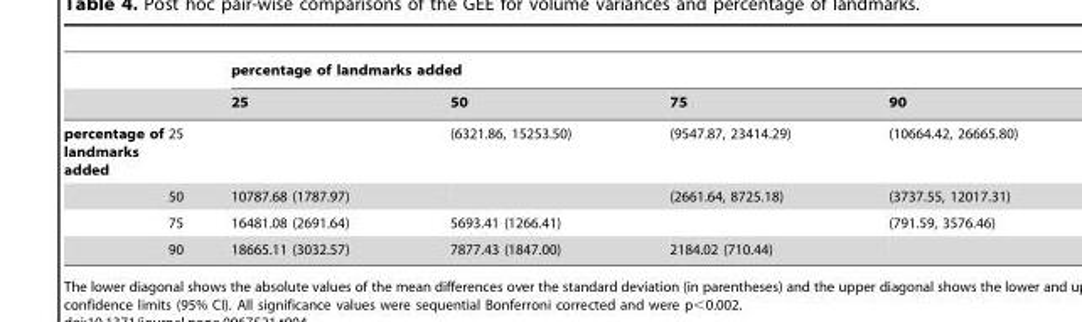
<table><thead><tr><td rowspan="2"></td><td rowspan="2"></td><td colspan="4">percentage of landmarks added</td></tr><tr><td>25</td><td>50</td><td>75</td><td>90</td></tr></thead><tbody><tr><td rowspan="4">percentage of landmarks added</td><td>25</td><td></td><td>(6321.86, 15253.50)</td><td>(9547.87, 23414.29)</td><td>(10664.42, 26665.80)</td></tr><tr><td>50</td><td>10787.68 (1787.97)</td><td></td><td>(2661.64, 8725.18)</td><td>(3737.55, 12017.31)</td></tr><tr><td>75</td><td>16481.08 (2691.64)</td><td>5693.41 (1266.41)</td><td></td><td>(791.59, 3576.46)</td></tr><tr><td>90</td><td>18665.11 (3032.57)</td><td>7877.43 (1847.00)</td><td>2184.02 (710.44)</td><td></td></tr></tbody></table>